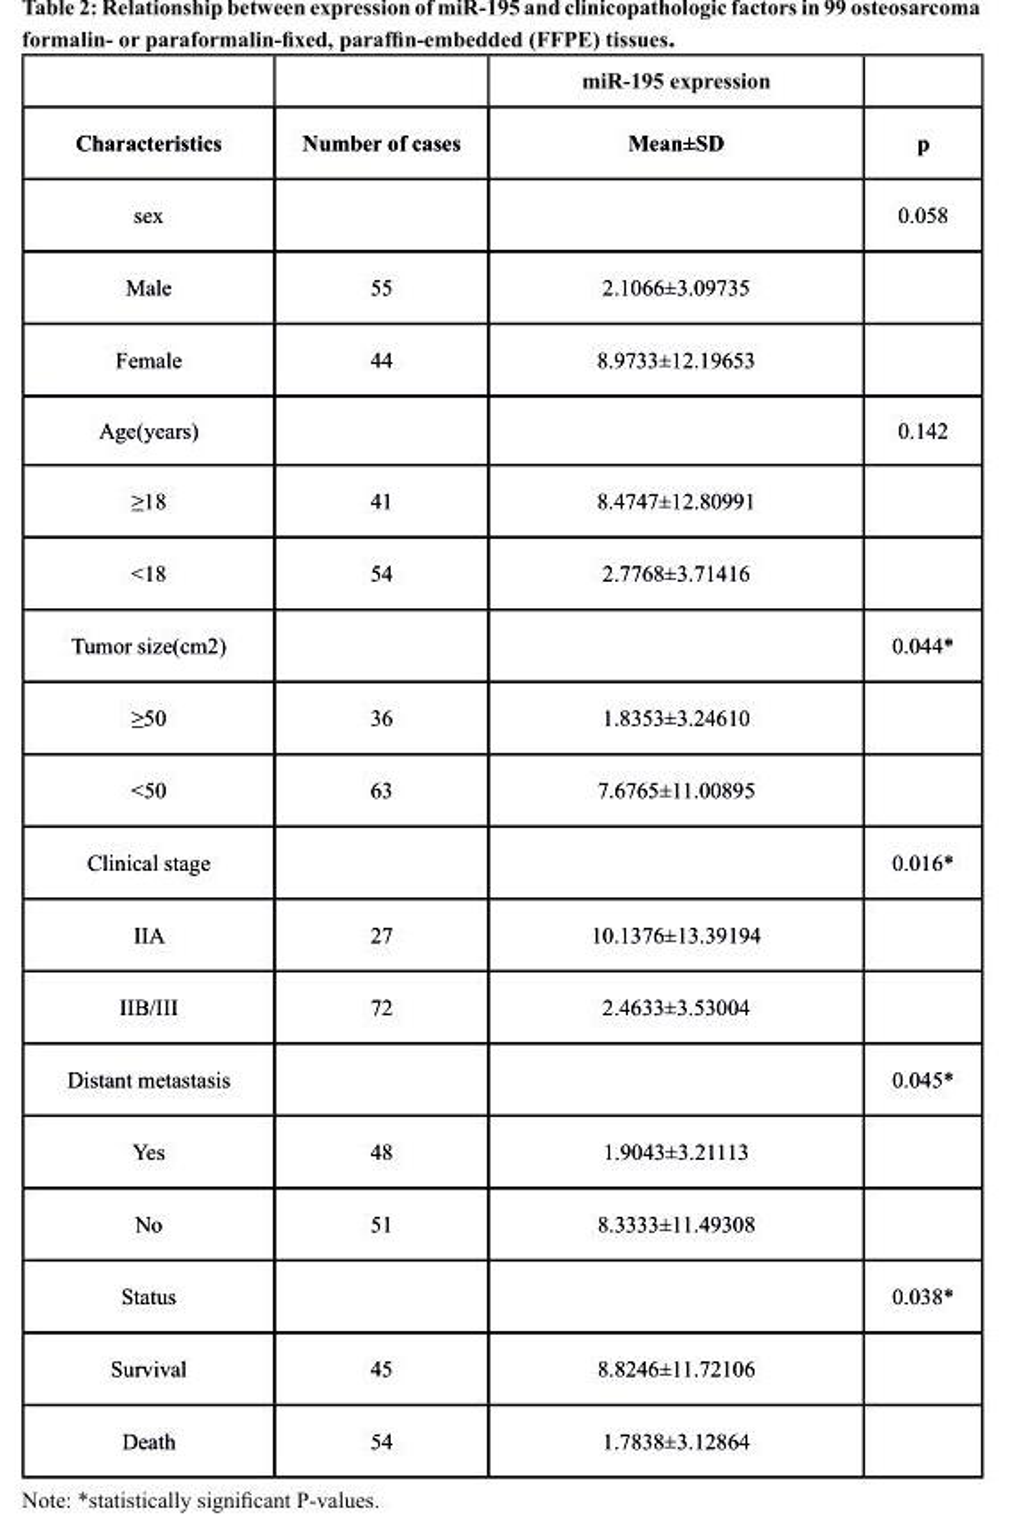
<table><thead><tr><td rowspan="2">Characteristics</td><td rowspan="2">Number of cases</td><td rowspan="2">miR-195 expression Mean±SD</td><td rowspan="2">p</td></tr><tr></tr></thead><tbody><tr><td>sex</td><td></td><td></td><td>0.058</td></tr><tr><td>Male</td><td>55</td><td>2.1066±3.09735</td><td></td></tr><tr><td>Female</td><td>44</td><td>8.9733±12.19653</td><td></td></tr><tr><td>Age(years)</td><td></td><td></td><td>0.142</td></tr><tr><td>≥18</td><td>41</td><td>8.4747±12.80991</td><td></td></tr><tr><td>&lt;18</td><td>54</td><td>2.7768±3.71416</td><td></td></tr><tr><td>Tumor size(cm2)</td><td></td><td></td><td>0.044*</td></tr><tr><td>≥50</td><td>36</td><td>1.8353±3.24610</td><td></td></tr><tr><td>&lt;50</td><td>63</td><td>7.6765±11.00895</td><td></td></tr><tr><td>Clinical stage</td><td></td><td></td><td>0.016*</td></tr><tr><td>IIA</td><td>27</td><td>10.1376±13.39194</td><td></td></tr><tr><td>IIB/III</td><td>72</td><td>2.4633±3.53004</td><td></td></tr><tr><td>Distant metastasis</td><td></td><td></td><td>0.045*</td></tr><tr><td>Yes</td><td>48</td><td>1.9043±3.21113</td><td></td></tr><tr><td>No</td><td>51</td><td>8.3333±11.49308</td><td></td></tr><tr><td>Status</td><td></td><td></td><td>0.038*</td></tr><tr><td>Survival</td><td>45</td><td>8.8246±11.72106</td><td></td></tr><tr><td>Death</td><td>54</td><td>1.7838±3.12864</td><td></td></tr></tbody></table>